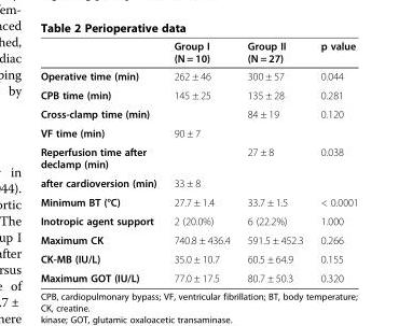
<table><thead><tr><td></td><td>Group I (N = 10)</td><td>Group II (N = 27)</td><td>p value</td></tr></thead><tbody><tr><td>Operative time (min)</td><td>262 ± 46</td><td>300 ± 57</td><td>0.044</td></tr><tr><td>CPB time (min)</td><td>145 ± 25</td><td>135 ± 28</td><td>0.281</td></tr><tr><td>Cross-clamp time (min)</td><td></td><td>84 ± 19</td><td>0.120</td></tr><tr><td>VF time (min)</td><td>90 ± 7</td><td></td><td></td></tr><tr><td>Reperfusion time after declamp (min)</td><td></td><td>27 ± 8</td><td>0.038</td></tr><tr><td>after cardioversion (min)</td><td>33 ± 8</td><td></td><td></td></tr><tr><td>Minimum BT (°C)</td><td>27.7 ± 1.4</td><td>33.7 ± 1.5</td><td>&lt; 0.0001</td></tr><tr><td>Inotropic agent support</td><td>2 (20.0%)</td><td>6 (22.2%)</td><td>1.000</td></tr><tr><td>Maximum CK</td><td>740.8 ± 436.4</td><td>591.5 ± 452.3</td><td>0.266</td></tr><tr><td>CK-MB (IU/L)</td><td>35.0 ± 10.7</td><td>60.5 ± 64.9</td><td>0.155</td></tr><tr><td>Maximum GOT (IU/L)</td><td>77.0 ± 17.5</td><td>80.7 ± 50.3</td><td>0.320</td></tr></tbody></table>